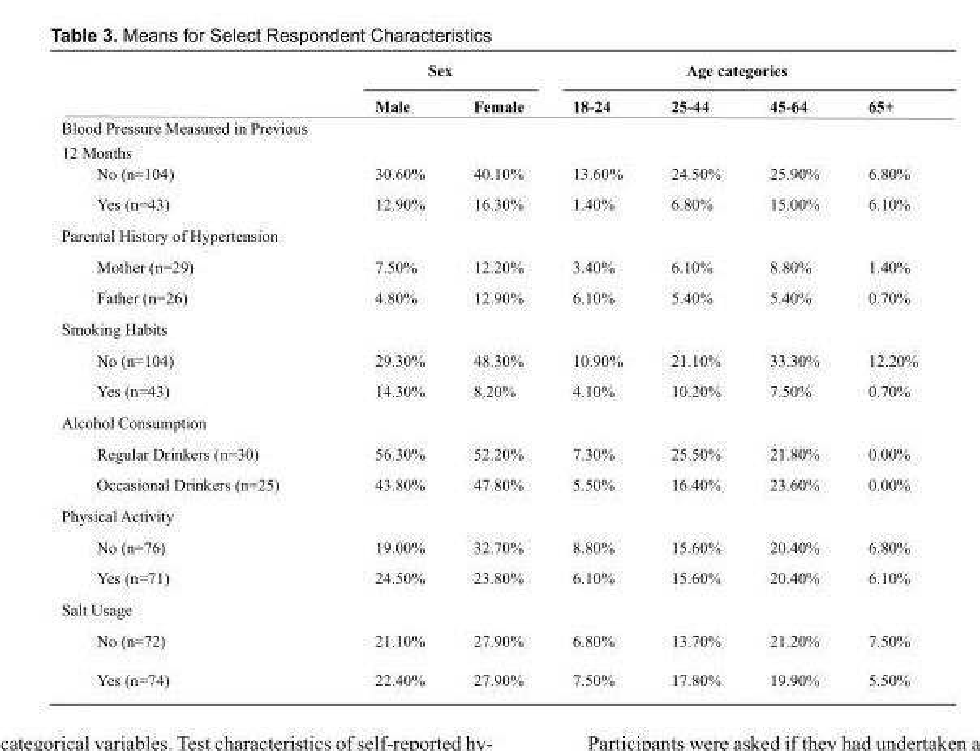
<table><thead><tr><td rowspan="2"></td><td colspan="2">Sex</td><td colspan="4">Age categories</td></tr><tr><td>Male</td><td>Female</td><td>18-24</td><td>25-44</td><td>45-64</td><td>65+</td></tr></thead><tbody><tr><td colspan="7">Blood Pressure Measured in Previous 12 Months</td></tr><tr><td>No (n=104)</td><td>30.60%</td><td>40.10%</td><td>13.60%</td><td>24.50%</td><td>25.90%</td><td>6.80%</td></tr><tr><td>Yes (n=43)</td><td>12.90%</td><td>16.30%</td><td>1.40%</td><td>6.80%</td><td>15.00%</td><td>6.10%</td></tr><tr><td colspan="7">Parental History of Hypertension</td></tr><tr><td>Mother (n=29)</td><td>7.50%</td><td>12.20%</td><td>3.40%</td><td>6.10%</td><td>8.80%</td><td>1.40%</td></tr><tr><td>Father (n=26)</td><td>4.80%</td><td>12.90%</td><td>6.10%</td><td>5.40%</td><td>5.40%</td><td>0.70%</td></tr><tr><td colspan="7">Smoking Habits</td></tr><tr><td>No (n=104)</td><td>29.30%</td><td>48.30%</td><td>10.90%</td><td>21.10%</td><td>33.30%</td><td>12.20%</td></tr><tr><td>Yes (n=43)</td><td>14.30%</td><td>8.20%</td><td>4.10%</td><td>10.20%</td><td>7.50%</td><td>0.70%</td></tr><tr><td colspan="7">Alcohol Consumption</td></tr><tr><td>Regular Drinkers (n=30)</td><td>56.30%</td><td>52.20%</td><td>7.30%</td><td>25.50%</td><td>21.80%</td><td>0.00%</td></tr><tr><td>Occasional Drinkers (n=25)</td><td>43.80%</td><td>47.80%</td><td>5.50%</td><td>16.40%</td><td>23.60%</td><td>0.00%</td></tr><tr><td colspan="7">Physical Activity</td></tr><tr><td>No (n=76)</td><td>19.00%</td><td>32.70%</td><td>8.80%</td><td>15.60%</td><td>20.40%</td><td>6.80%</td></tr><tr><td>Yes (n=71)</td><td>24.50%</td><td>23.80%</td><td>6.10%</td><td>15.60%</td><td>20.40%</td><td>6.10%</td></tr><tr><td colspan="7">Salt Usage</td></tr><tr><td>No (n=72)</td><td>21.10%</td><td>27.90%</td><td>6.80%</td><td>13.70%</td><td>21.20%</td><td>7.50%</td></tr><tr><td>Yes (n=74)</td><td>22.40%</td><td>27.90%</td><td>7.50%</td><td>17.80%</td><td>19.90%</td><td>5.50%</td></tr></tbody></table>